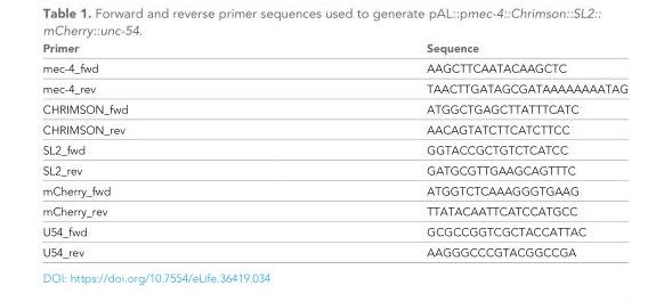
<table><thead><tr><td>Primer</td><td>Sequence</td></tr></thead><tbody><tr><td>mec-4_fwd</td><td>AAGCTTCAATACAAGCTC</td></tr><tr><td>mec-4_rev</td><td>TAACTTGATAGCGATAAAAAAAATAG</td></tr><tr><td>CHRIMSON_fwd</td><td>ATGGCTGAGCTTATTTCATC</td></tr><tr><td>CHRIMSON_rev</td><td>AACAGTATCTTCATCTTCC</td></tr><tr><td>SL2_fwd</td><td>GGTACCGCTGTCTCATCC</td></tr><tr><td>SL2_rev</td><td>GATGCGTTGAAGCAGTTTC</td></tr><tr><td>mCherry_fwd</td><td>ATGGTCTCAAAGGGTGAAG</td></tr><tr><td>mCherry_rev</td><td>TTATACAATTCATCCATGCC</td></tr><tr><td>U54_fwd</td><td>GCGCCGGTCGCTACCATTAC</td></tr><tr><td>U54_rev</td><td>AAGGGCCCGTACGGCCGA</td></tr></tbody></table>